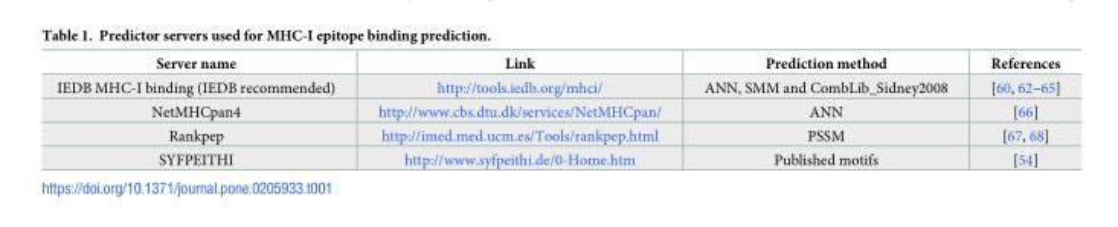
<table><thead><tr><td>Server name</td><td>Link</td><td>Prediction method</td><td>References</td></tr></thead><tbody><tr><td>IEDB MHC-I binding (IEDB recommended)</td><td>http://tools.iedb.org/mhci/</td><td>ANN, SMM and CombLib_Sidney2008</td><td>[60, 62–65]</td></tr><tr><td>NetMHCpan4</td><td>http://www.cbs.dtu.dk/services/NetMHCpan/</td><td>ANN</td><td>[66]</td></tr><tr><td>Rankpep</td><td>http://imed.med.ucm.es/Tools/rankpep.html</td><td>PSSM</td><td>[67, 68]</td></tr><tr><td>SYFPEITHI</td><td>http://www.syfpeithi.de/0-Home.htm</td><td>Published motifs</td><td>[54]</td></tr></tbody></table>